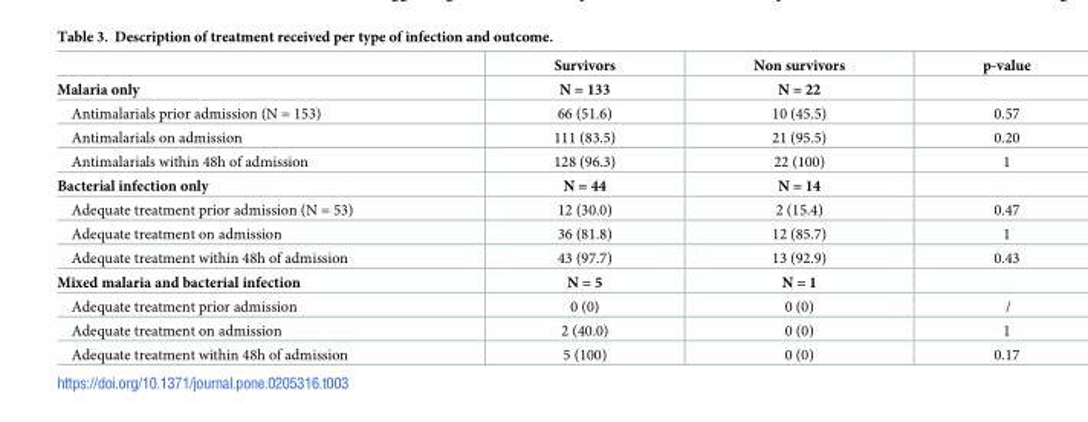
<table><thead><tr><td></td><td>Survivors</td><td>Non survivors</td><td>p-value</td></tr></thead><tbody><tr><td>Malaria only</td><td>N = 133</td><td>N = 22</td><td></td></tr><tr><td>Antimalarials prior admission (N = 153)</td><td>66 (51.6)</td><td>10 (45.5)</td><td>0.57</td></tr><tr><td>Antimalarials on admission</td><td>111 (83.5)</td><td>21 (95.5)</td><td>0.20</td></tr><tr><td>Antimalarials within 48h of admission</td><td>128 (96.3)</td><td>22 (100)</td><td>1</td></tr><tr><td>Bacterial infection only</td><td>N = 44</td><td>N = 14</td><td></td></tr><tr><td>Adequate treatment prior admission (N = 53)</td><td>12 (30.0)</td><td>2 (15.4)</td><td>0.47</td></tr><tr><td>Adequate treatment on admission</td><td>36 (81.8)</td><td>12 (85.7)</td><td>1</td></tr><tr><td>Adequate treatment within 48h of admission</td><td>43 (97.7)</td><td>13 (92.9)</td><td>0.43</td></tr><tr><td>Mixed malaria and bacterial infection</td><td>N = 5</td><td>N = 1</td><td></td></tr><tr><td>Adequate treatment prior admission</td><td>0 (0)</td><td>0 (0)</td><td>/</td></tr><tr><td>Adequate treatment on admission</td><td>2 (40.0)</td><td>0 (0)</td><td>1</td></tr><tr><td>Adequate treatment within 48h of admission</td><td>5 (100)</td><td>0 (0)</td><td>0.17</td></tr></tbody></table>